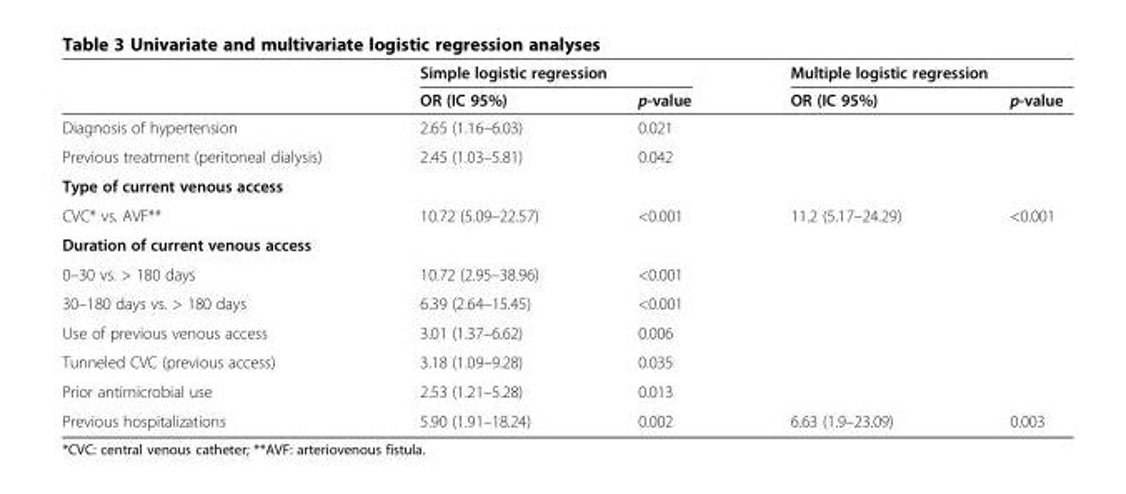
<table><thead><tr><td rowspan="2"></td><td colspan="2">Simple logistic regression</td><td colspan="2">Multiple logistic regression</td></tr><tr><td>OR (IC 95%)</td><td>p-value</td><td>OR (IC 95%)</td><td>p-value</td></tr></thead><tbody><tr><td>Diagnosis of hypertension</td><td>2.65 (1.16–6.03)</td><td>0.021</td><td></td><td></td></tr><tr><td>Previous treatment (peritoneal dialysis)</td><td>2.45 (1.03–5.81)</td><td>0.042</td><td></td><td></td></tr><tr><td colspan="5">Type of current venous access</td></tr><tr><td>CVC* vs. AVF**</td><td>10.72 (5.09–22.57)</td><td>&lt;0.001</td><td>11.2 (5.17–24.29)</td><td>&lt;0.001</td></tr><tr><td colspan="5">Duration of current venous access</td></tr><tr><td>0–30 vs. &gt; 180 days</td><td>10.72 (2.95–38.96)</td><td>&lt;0.001</td><td></td><td></td></tr><tr><td>30–180 days vs. &gt; 180 days</td><td>6.39 (2.64–15.45)</td><td>&lt;0.001</td><td></td><td></td></tr><tr><td>Use of previous venous access</td><td>3.01 (1.37–6.62)</td><td>0.006</td><td></td><td></td></tr><tr><td>Tunneled CVC (previous access)</td><td>3.18 (1.09–9.28)</td><td>0.035</td><td></td><td></td></tr><tr><td>Prior antimicrobial use</td><td>2.53 (1.21–5.28)</td><td>0.013</td><td></td><td></td></tr><tr><td>Previous hospitalizations</td><td>5.90 (1.91–18.24)</td><td>0.002</td><td>6.63 (1.9–23.09)</td><td>0.003</td></tr></tbody></table>